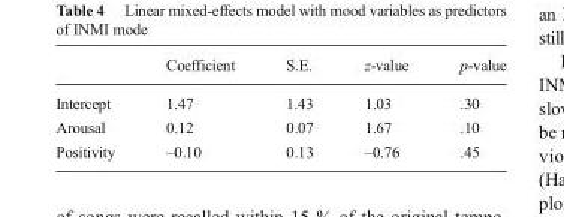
<table><thead><tr><td></td><td>Coefficient</td><td>S.E.</td><td>z-value</td><td>p-value</td></tr></thead><tbody><tr><td>Intercept</td><td>1.47</td><td>1.43</td><td>1.03</td><td>.30</td></tr><tr><td>Arousal</td><td>0.12</td><td>0.07</td><td>1.67</td><td>.10</td></tr><tr><td>Positivity</td><td>–0.10</td><td>0.13</td><td>–0.76</td><td>.45</td></tr></tbody></table>